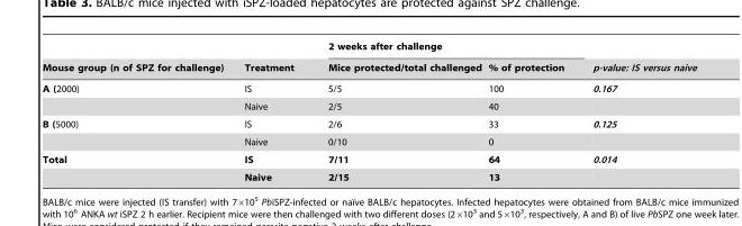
<table><thead><tr><td rowspan="2">Mouse group (n of SPZ for challenge)</td><td rowspan="2">Treatment</td><td colspan="2">2 weeks after challenge</td><td rowspan="2">p-value: IS versus naive</td></tr><tr><td>Mice protected/total challenged</td><td>% of protection</td></tr></thead><tbody><tr><td rowspan="2">A (2000)</td><td>IS</td><td>5/5</td><td>100</td><td>0.167</td></tr><tr><td>Naive</td><td>2/5</td><td>40</td><td></td></tr><tr><td rowspan="2">B (5000)</td><td>IS</td><td>2/6</td><td>33</td><td>0.125</td></tr><tr><td>Naive</td><td>0/10</td><td>0</td><td></td></tr><tr><td rowspan="2">Total</td><td>IS</td><td>7/11</td><td>64</td><td>0.014</td></tr><tr><td>Naive</td><td>2/15</td><td>13</td><td></td></tr></tbody></table>